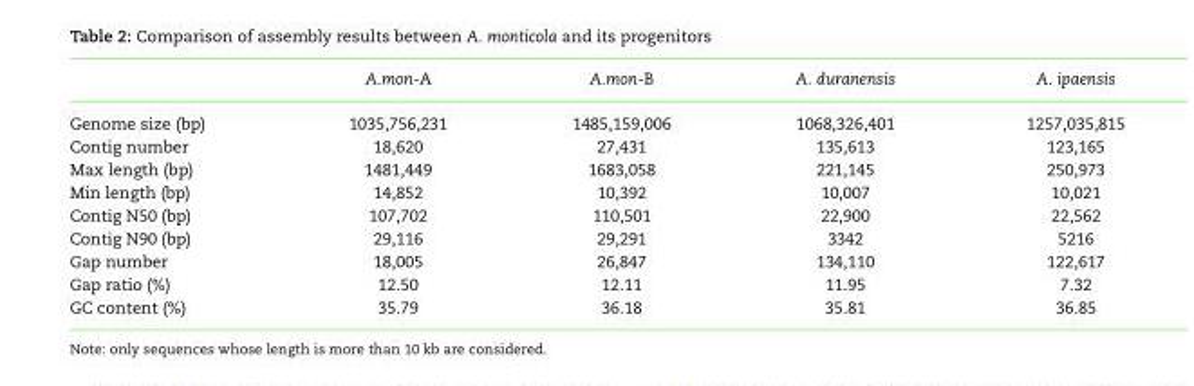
<table><thead><tr><td></td><td>A.mon-A</td><td>A.mon-B</td><td>A. duranensis</td><td>A. ipaensis</td></tr></thead><tbody><tr><td>Genome size (bp)</td><td>1035,756,231</td><td>1485,159,006</td><td>1068,326,401</td><td>1257,035,815</td></tr><tr><td>Contig number</td><td>18,620</td><td>27,431</td><td>135,613</td><td>123,165</td></tr><tr><td>Max length (bp)</td><td>1481,449</td><td>1683,058</td><td>221,145</td><td>250,973</td></tr><tr><td>Min length (bp)</td><td>14,852</td><td>10,392</td><td>10,007</td><td>10,021</td></tr><tr><td>Contig N50 (bp)</td><td>107,702</td><td>110,501</td><td>22,900</td><td>22,562</td></tr><tr><td>Contig N90 (bp)</td><td>29,116</td><td>29,291</td><td>3342</td><td>5216</td></tr><tr><td>Gap number</td><td>18,005</td><td>26,847</td><td>134,110</td><td>122,617</td></tr><tr><td>Gap ratio (%)</td><td>12.50</td><td>12.11</td><td>11.95</td><td>7.32</td></tr><tr><td>GC content (%)</td><td>35.79</td><td>36.18</td><td>35.81</td><td>36.85</td></tr></tbody></table>